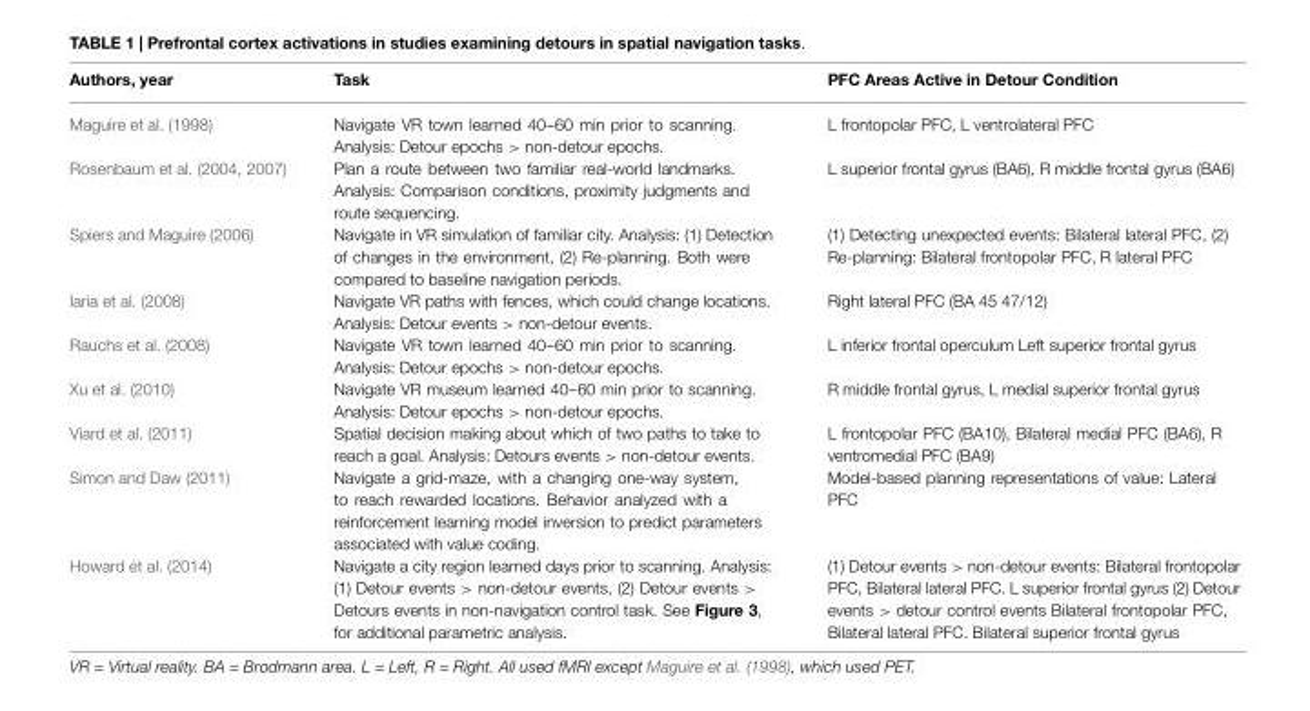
<table><thead><tr><td>Authors, year</td><td>Task</td><td>PFC Areas Active in Detour Condition</td></tr></thead><tbody><tr><td>Maguire et al. (1998)</td><td>Navigate VR town learned 40--60 min prior to scanning. Analysis: Detour epochs &gt; non-detour epochs.</td><td>L frontopolar PFC, L ventrolateral PFC</td></tr><tr><td>Rosenbaum et al. (2004, 2007)</td><td>Plan a route between two familiar real-world landmarks. Analysis: Comparison conditions, proximity judgments and route sequencing.</td><td>L superior frontal gyrus (BA6), R middle frontal gyrus (BA6)</td></tr><tr><td>Spiers and Maguire (2006)</td><td>Navigate in VR simulation of familiar city. Analysis: (1) Detection of changes in the environment, (2) Re-planning. Both were compared to baseline navigation periods.</td><td>(1) Detecting unexpected events: Bilateral lateral PFC, (2) Re-planning: Bilateral frontopolar PFC, R lateral PFC</td></tr><tr><td>Iaria et al. (2008)</td><td>Navigate VR paths with fences, which could change locations. Analysis: Detour events &gt; non-detour events.</td><td>Right lateral PFC (BA 45 47/12)</td></tr><tr><td>Rauchs et al. (2008)</td><td>Navigate VR town learned 40--60 min prior to scanning. Analysis: Detour epochs &gt; non-detour epochs.</td><td>L inferior frontal operculum Left superior frontal gyrus</td></tr><tr><td>Xu et al. (2010)</td><td>Navigate VR museum learned 40--60 min prior to scanning. Analysis: Detour epochs &gt; non-detour epochs.</td><td>R middle frontal gyrus, L medial superior frontal gyrus</td></tr><tr><td>Viard et al. (2011)</td><td>Spatial decision making about which of two paths to take to reach a goal. Analysis: Detours events &gt; non-detour events.</td><td>L frontopolar PFC (BA10), Bilateral medial PFC (BA6), R ventromedial PFC (BA9)</td></tr><tr><td>Simon and Daw (2011)</td><td>Navigate a grid-maze, with a changing one-way system, to reach rewarded locations. Behavior analyzed with a reinforcement learning model inversion to predict parameters associated with value coding.</td><td>Model-based planning representations of value: Lateral PFC</td></tr><tr><td>Howard et al. (2014)</td><td>Navigate a city region learned days prior to scanning. Analysis: (1) Detour events &gt; non-detour events, (2) Detour events &gt; Detours events in non-navigation control task. See Figure 3, for additional parametric analysis.</td><td>(1) Detour events &gt; non-detour events: Bilateral frontopolar PFC, Bilateral lateral PFC. L superior frontal gyrus (2) Detour events &gt; detour control events Bilateral frontopolar PFC, Bilateral lateral PFC. Bilateral superior frontal gyrus</td></tr></tbody></table>